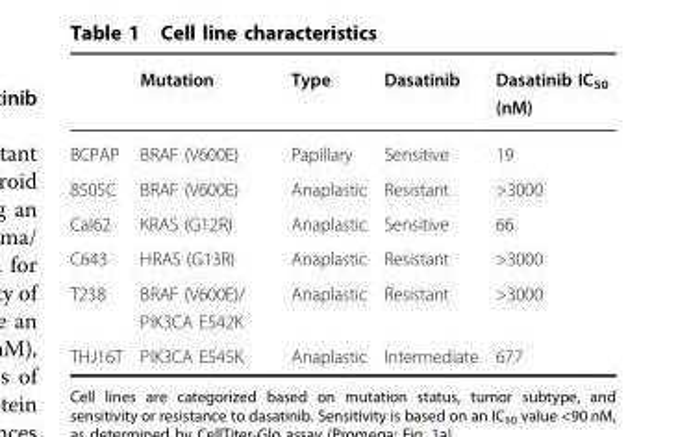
<table><thead><tr><td></td><td>Mutation</td><td>Type</td><td>Dasatinib</td><td>Dasatinib IC<sub>50</sub> (nM)</td></tr></thead><tbody><tr><td>BCPAP</td><td>BRAF (V600E)</td><td>Papillary</td><td>Sensitive</td><td>19</td></tr><tr><td>8505C</td><td>BRAF (V600E)</td><td>Anaplastic</td><td>Resistant</td><td>&gt;3000</td></tr><tr><td>Cal62</td><td>KRAS (G12R)</td><td>Anaplastic</td><td>Sensitive</td><td>66</td></tr><tr><td>C643</td><td>HRAS (G13R)</td><td>Anaplastic</td><td>Resistant</td><td>&gt;3000</td></tr><tr><td>T238</td><td>BRAF (V600E)/ PIK3CA E542K</td><td>Anaplastic</td><td>Resistant</td><td>&gt;3000</td></tr><tr><td>THJ16T</td><td>PIK3CA E545K</td><td>Anaplastic</td><td>Intermediate</td><td>677</td></tr></tbody></table>